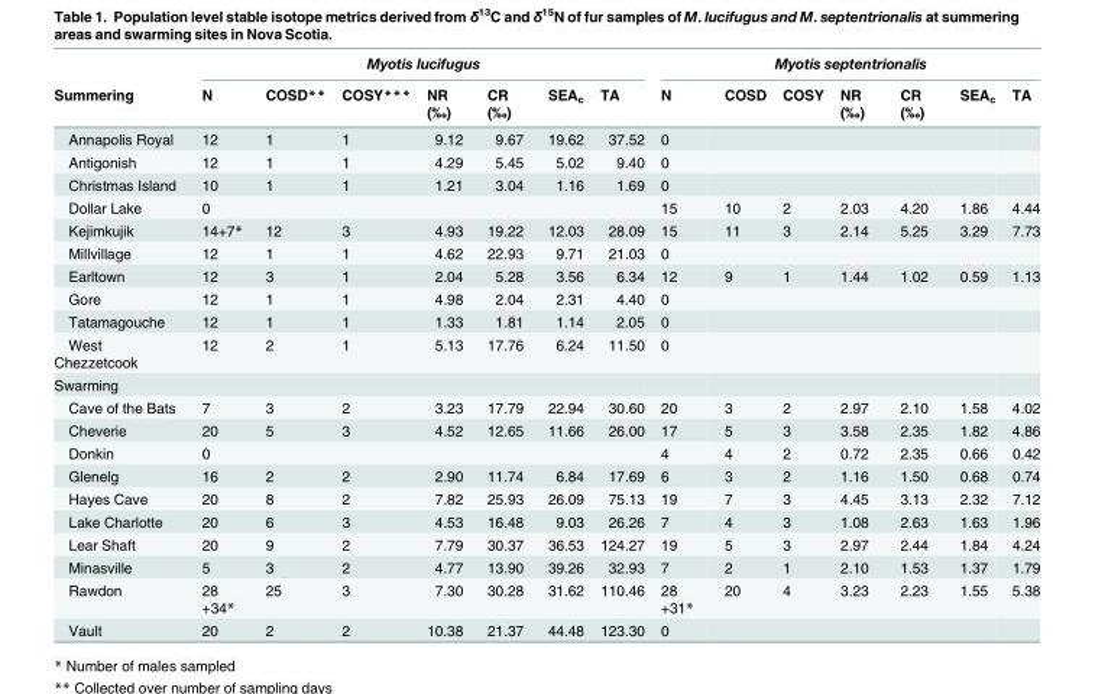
<table><thead><tr><td rowspan="2">Summering</td><td colspan="7">Myotis lucifugus</td><td colspan="7">Myotis septentrionalis</td></tr><tr><td>N</td><td>COSD**</td><td>COSY***</td><td>NR (‰)</td><td>CR (‰)</td><td>SEA<sub>c</sub></td><td>TA</td><td>N</td><td>COSD</td><td>COSY</td><td>NR (‰)</td><td>CR (‰)</td><td>SEA<sub>c</sub></td><td>TA</td></tr></thead><tbody><tr><td>Annapolis Royal</td><td>12</td><td>1</td><td>1</td><td>9.12</td><td>9.67</td><td>19.62</td><td>37.52</td><td>0</td><td></td><td></td><td></td><td></td><td></td><td></td></tr><tr><td>Antigonish</td><td>12</td><td>1</td><td>1</td><td>4.29</td><td>5.45</td><td>5.02</td><td>9.40</td><td>0</td><td></td><td></td><td></td><td></td><td></td><td></td></tr><tr><td>Christmas Island</td><td>10</td><td>1</td><td>1</td><td>1.21</td><td>3.04</td><td>1.16</td><td>1.69</td><td>0</td><td></td><td></td><td></td><td></td><td></td><td></td></tr><tr><td>Dollar Lake</td><td>0</td><td></td><td></td><td></td><td></td><td></td><td></td><td>15</td><td>10</td><td>2</td><td>2.03</td><td>4.20</td><td>1.86</td><td>4.44</td></tr><tr><td>Kejimkujik</td><td>14+7*</td><td>12</td><td>3</td><td>4.93</td><td>19.22</td><td>12.03</td><td>28.09</td><td>15</td><td>11</td><td>3</td><td>2.14</td><td>5.25</td><td>3.29</td><td>7.73</td></tr><tr><td>Millvillage</td><td>12</td><td>1</td><td>1</td><td>4.62</td><td>22.93</td><td>9.71</td><td>21.03</td><td>0</td><td></td><td></td><td></td><td></td><td></td><td></td></tr><tr><td>Earltown</td><td>12</td><td>3</td><td>1</td><td>2.04</td><td>5.28</td><td>3.56</td><td>6.34</td><td>12</td><td>9</td><td>1</td><td>1.44</td><td>1.02</td><td>0.59</td><td>1.13</td></tr><tr><td>Gore</td><td>12</td><td>1</td><td>1</td><td>4.98</td><td>2.04</td><td>2.31</td><td>4.40</td><td>0</td><td></td><td></td><td></td><td></td><td></td><td></td></tr><tr><td>Tatamagouche</td><td>12</td><td>1</td><td>1</td><td>1.33</td><td>1.81</td><td>1.14</td><td>2.05</td><td>0</td><td></td><td></td><td></td><td></td><td></td><td></td></tr><tr><td>West Chezzetcook</td><td>12</td><td>2</td><td>1</td><td>5.13</td><td>17.76</td><td>6.24</td><td>11.50</td><td>0</td><td></td><td></td><td></td><td></td><td></td><td></td></tr><tr><td colspan="15">Swarming</td></tr><tr><td>Cave of the Bats</td><td>7</td><td>3</td><td>2</td><td>3.23</td><td>17.79</td><td>22.94</td><td>30.60</td><td>20</td><td>3</td><td>2</td><td>2.97</td><td>2.10</td><td>1.58</td><td>4.02</td></tr><tr><td>Cheverie</td><td>20</td><td>5</td><td>3</td><td>4.52</td><td>12.65</td><td>11.66</td><td>26.00</td><td>17</td><td>5</td><td>3</td><td>3.58</td><td>2.35</td><td>1.82</td><td>4.86</td></tr><tr><td>Donkin</td><td>0</td><td></td><td></td><td></td><td></td><td></td><td></td><td>4</td><td>4</td><td>2</td><td>0.72</td><td>2.35</td><td>0.66</td><td>0.42</td></tr><tr><td>Glenelg</td><td>16</td><td>2</td><td>2</td><td>2.90</td><td>11.74</td><td>6.84</td><td>17.69</td><td>6</td><td>3</td><td>2</td><td>1.16</td><td>1.50</td><td>0.68</td><td>0.74</td></tr><tr><td>Hayes Cave</td><td>20</td><td>8</td><td>2</td><td>7.82</td><td>25.93</td><td>26.09</td><td>75.13</td><td>19</td><td>7</td><td>3</td><td>4.45</td><td>3.13</td><td>2.32</td><td>7.12</td></tr><tr><td>Lake Charlotte</td><td>20</td><td>6</td><td>3</td><td>4.53</td><td>16.48</td><td>9.03</td><td>26.26</td><td>7</td><td>4</td><td>3</td><td>1.08</td><td>2.63</td><td>1.63</td><td>1.96</td></tr><tr><td>Lear Shaft</td><td>20</td><td>9</td><td>2</td><td>7.79</td><td>30.37</td><td>36.53</td><td>124.27</td><td>19</td><td>5</td><td>3</td><td>2.97</td><td>2.44</td><td>1.84</td><td>4.24</td></tr><tr><td>Minasville</td><td>5</td><td>3</td><td>2</td><td>4.77</td><td>13.90</td><td>39.26</td><td>32.93</td><td>7</td><td>2</td><td>1</td><td>2.10</td><td>1.53</td><td>1.37</td><td>1.79</td></tr><tr><td>Rawdon</td><td>28 +34*</td><td>25</td><td>3</td><td>7.30</td><td>30.28</td><td>31.62</td><td>110.46</td><td>28 +31*</td><td>20</td><td>4</td><td>3.23</td><td>2.23</td><td>1.55</td><td>5.38</td></tr><tr><td>Vault</td><td>20</td><td>2</td><td>2</td><td>10.38</td><td>21.37</td><td>44.48</td><td>123.30</td><td>0</td><td></td><td></td><td></td><td></td><td></td><td></td></tr></tbody></table>